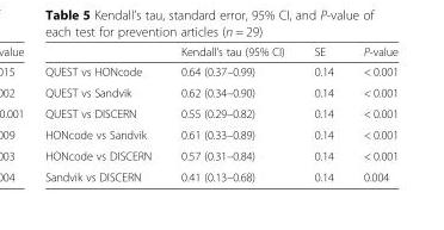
<table><thead><tr><td></td><td>Kendall’s tau (95% CI)</td><td>SE</td><td>P-value</td></tr></thead><tbody><tr><td>QUEST vs HONcode</td><td>0.64 (0.37–0.99)</td><td>0.14</td><td>&lt; 0.001</td></tr><tr><td>QUEST vs Sandvik</td><td>0.62 (0.34–0.90)</td><td>0.14</td><td>&lt; 0.001</td></tr><tr><td>QUEST vs DISCERN</td><td>0.55 (0.29–0.82)</td><td>0.14</td><td>&lt; 0.001</td></tr><tr><td>HONcode vs Sandvik</td><td>0.61 (0.33–0.89)</td><td>0.14</td><td>&lt; 0.001</td></tr><tr><td>HONcode vs DISCERN</td><td>0.57 (0.31–0.84)</td><td>0.14</td><td>&lt; 0.001</td></tr><tr><td>Sandvik vs DISCERN</td><td>0.41 (0.13–0.68)</td><td>0.14</td><td>0.004</td></tr></tbody></table>